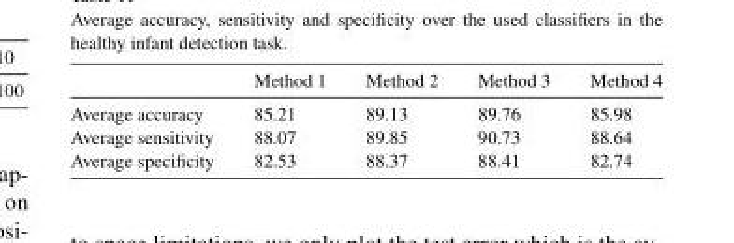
<table><thead><tr><td></td><td>Method 1</td><td>Method 2</td><td>Method 3</td><td>Method 4</td></tr></thead><tbody><tr><td>Average accuracy</td><td>85.21</td><td>89.13</td><td>89.76</td><td>85.98</td></tr><tr><td>Average sensitivity</td><td>88.07</td><td>89.85</td><td>90.73</td><td>88.64</td></tr><tr><td>Average specificity</td><td>82.53</td><td>88.37</td><td>88.41</td><td>82.74</td></tr></tbody></table>